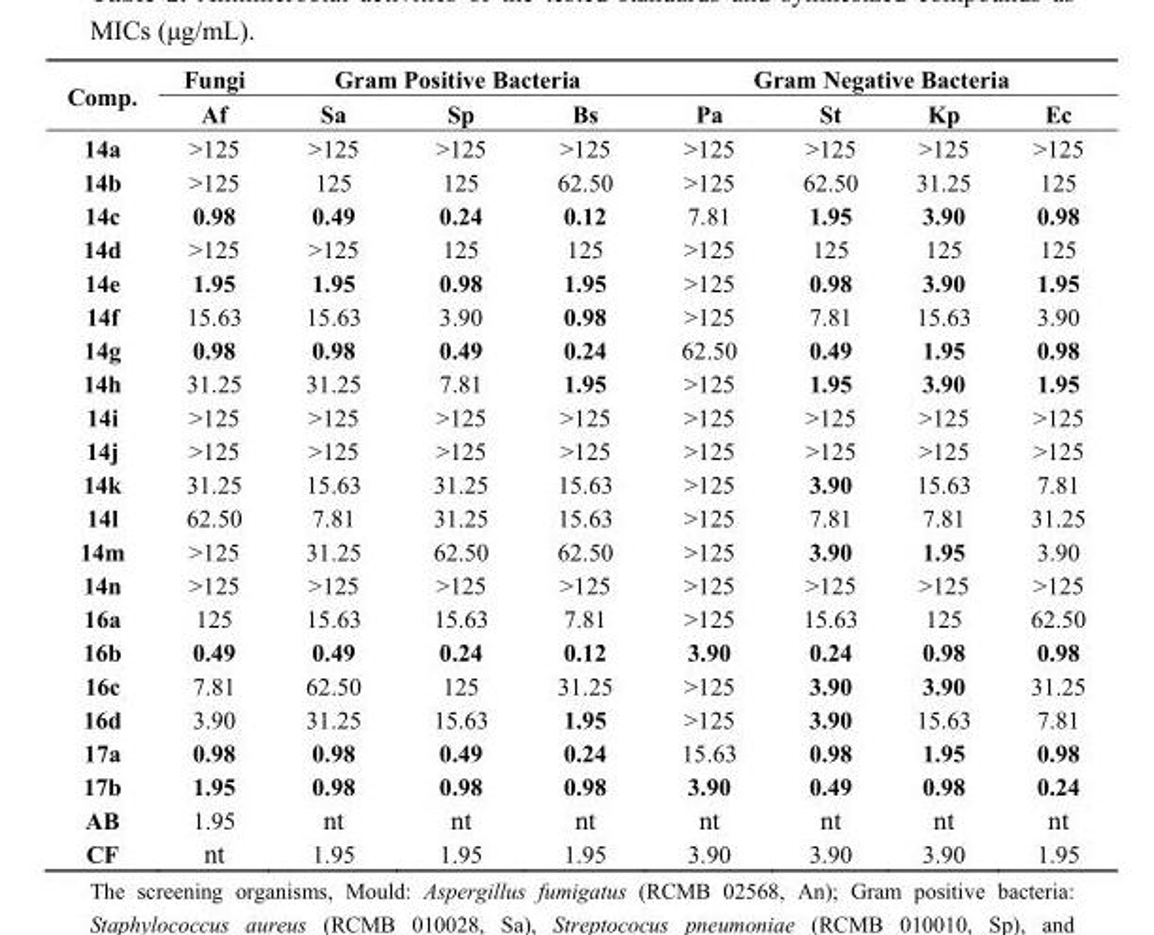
<table><thead><tr><td rowspan="2">Comp.</td><td rowspan="2">Fungi Af</td><td colspan="3">Gram Positive Bacteria</td><td colspan="4">Gram Negative Bacteria</td></tr><tr><td>Sa</td><td>Sp</td><td>Bs</td><td>Pa</td><td>St</td><td>Kp</td><td>Ec</td></tr></thead><tbody><tr><td>14a</td><td>&gt;125</td><td>&gt;125</td><td>&gt;125</td><td>&gt;125</td><td>&gt;125</td><td>&gt;125</td><td>&gt;125</td><td>&gt;125</td></tr><tr><td>14b</td><td>&gt;125</td><td>125</td><td>125</td><td>62.50</td><td>&gt;125</td><td>62.50</td><td>31.25</td><td>125</td></tr><tr><td>14c</td><td>0.98</td><td>0.49</td><td>0.24</td><td>0.12</td><td>7.81</td><td>1.95</td><td>3.90</td><td>0.98</td></tr><tr><td>14d</td><td>&gt;125</td><td>&gt;125</td><td>125</td><td>125</td><td>&gt;125</td><td>125</td><td>125</td><td>125</td></tr><tr><td>14e</td><td>1.95</td><td>1.95</td><td>0.98</td><td>1.95</td><td>&gt;125</td><td>0.98</td><td>3.90</td><td>1.95</td></tr><tr><td>14f</td><td>15.63</td><td>15.63</td><td>3.90</td><td>0.98</td><td>&gt;125</td><td>7.81</td><td>15.63</td><td>3.90</td></tr><tr><td>14g</td><td>0.98</td><td>0.98</td><td>0.49</td><td>0.24</td><td>62.50</td><td>0.49</td><td>1.95</td><td>0.98</td></tr><tr><td>14h</td><td>31.25</td><td>31.25</td><td>7.81</td><td>1.95</td><td>&gt;125</td><td>1.95</td><td>3.90</td><td>1.95</td></tr><tr><td>14i</td><td>&gt;125</td><td>&gt;125</td><td>&gt;125</td><td>&gt;125</td><td>&gt;125</td><td>&gt;125</td><td>&gt;125</td><td>&gt;125</td></tr><tr><td>14j</td><td>&gt;125</td><td>&gt;125</td><td>&gt;125</td><td>&gt;125</td><td>&gt;125</td><td>&gt;125</td><td>&gt;125</td><td>&gt;125</td></tr><tr><td>14k</td><td>31.25</td><td>15.63</td><td>31.25</td><td>15.63</td><td>&gt;125</td><td>3.90</td><td>15.63</td><td>7.81</td></tr><tr><td>14l</td><td>62.50</td><td>7.81</td><td>31.25</td><td>15.63</td><td>&gt;125</td><td>7.81</td><td>7.81</td><td>31.25</td></tr><tr><td>14m</td><td>&gt;125</td><td>31.25</td><td>62.50</td><td>62.50</td><td>&gt;125</td><td>3.90</td><td>1.95</td><td>3.90</td></tr><tr><td>14n</td><td>&gt;125</td><td>&gt;125</td><td>&gt;125</td><td>&gt;125</td><td>&gt;125</td><td>&gt;125</td><td>&gt;125</td><td>&gt;125</td></tr><tr><td>16a</td><td>125</td><td>15.63</td><td>15.63</td><td>7.81</td><td>&gt;125</td><td>15.63</td><td>125</td><td>62.50</td></tr><tr><td>16b</td><td>0.49</td><td>0.49</td><td>0.24</td><td>0.12</td><td>3.90</td><td>0.24</td><td>0.98</td><td>0.98</td></tr><tr><td>16c</td><td>7.81</td><td>62.50</td><td>125</td><td>31.25</td><td>&gt;125</td><td>3.90</td><td>3.90</td><td>31.25</td></tr><tr><td>16d</td><td>3.90</td><td>31.25</td><td>15.63</td><td>1.95</td><td>&gt;125</td><td>3.90</td><td>15.63</td><td>7.81</td></tr><tr><td>17a</td><td>0.98</td><td>0.98</td><td>0.49</td><td>0.24</td><td>15.63</td><td>0.98</td><td>1.95</td><td>0.98</td></tr><tr><td>17b</td><td>1.95</td><td>0.98</td><td>0.98</td><td>0.98</td><td>3.90</td><td>0.49</td><td>0.98</td><td>0.24</td></tr><tr><td>AB</td><td>1.95</td><td>nt</td><td>nt</td><td>nt</td><td>nt</td><td>nt</td><td>nt</td><td>nt</td></tr><tr><td>CF</td><td>nt</td><td>1.95</td><td>1.95</td><td>1.95</td><td>3.90</td><td>3.90</td><td>3.90</td><td>1.95</td></tr></tbody></table>